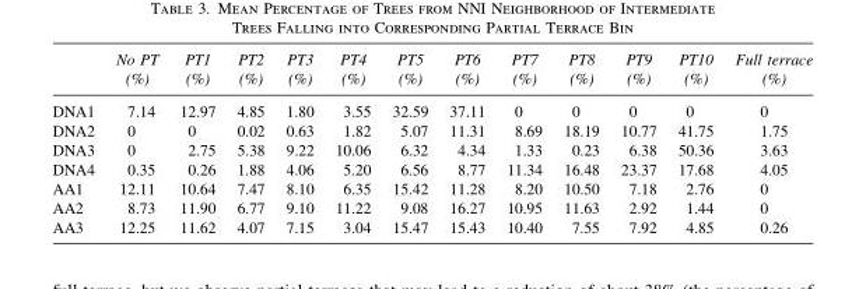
<table><thead><tr><td></td><td>No PT (%)</td><td>PT1 (%)</td><td>PT2 (%)</td><td>PT3 (%)</td><td>PT4 (%)</td><td>PT5 (%)</td><td>PT6 (%)</td><td>PT7 (%)</td><td>PT8 (%)</td><td>PT9 (%)</td><td>PT10 (%)</td><td>Full terrace (%)</td></tr></thead><tbody><tr><td>DNA1</td><td>7.14</td><td>12.97</td><td>4.85</td><td>1.80</td><td>3.55</td><td>32.59</td><td>37.11</td><td>0</td><td>0</td><td>0</td><td>0</td><td>0</td></tr><tr><td>DNA2</td><td>0</td><td>0</td><td>0.02</td><td>0.63</td><td>1.82</td><td>5.07</td><td>11.31</td><td>8.69</td><td>18.19</td><td>10.77</td><td>41.75</td><td>1.75</td></tr><tr><td>DNA3</td><td>0</td><td>2.75</td><td>5.38</td><td>9.22</td><td>10.06</td><td>6.32</td><td>4.34</td><td>1.33</td><td>0.23</td><td>6.38</td><td>50.36</td><td>3.63</td></tr><tr><td>DNA4</td><td>0.35</td><td>0.26</td><td>1.88</td><td>4.06</td><td>5.20</td><td>6.56</td><td>8.77</td><td>11.34</td><td>16.48</td><td>23.37</td><td>17.68</td><td>4.05</td></tr><tr><td>AA1</td><td>12.11</td><td>10.64</td><td>7.47</td><td>8.10</td><td>6.35</td><td>15.42</td><td>11.28</td><td>8.20</td><td>10.50</td><td>7.18</td><td>2.76</td><td>0</td></tr><tr><td>AA2</td><td>8.73</td><td>11.90</td><td>6.77</td><td>9.10</td><td>11.22</td><td>9.08</td><td>16.27</td><td>10.95</td><td>11.63</td><td>2.92</td><td>1.44</td><td>0</td></tr><tr><td>AA3</td><td>12.25</td><td>11.62</td><td>4.07</td><td>7.15</td><td>3.04</td><td>15.47</td><td>15.43</td><td>10.40</td><td>7.55</td><td>7.92</td><td>4.85</td><td>0.26</td></tr></tbody></table>